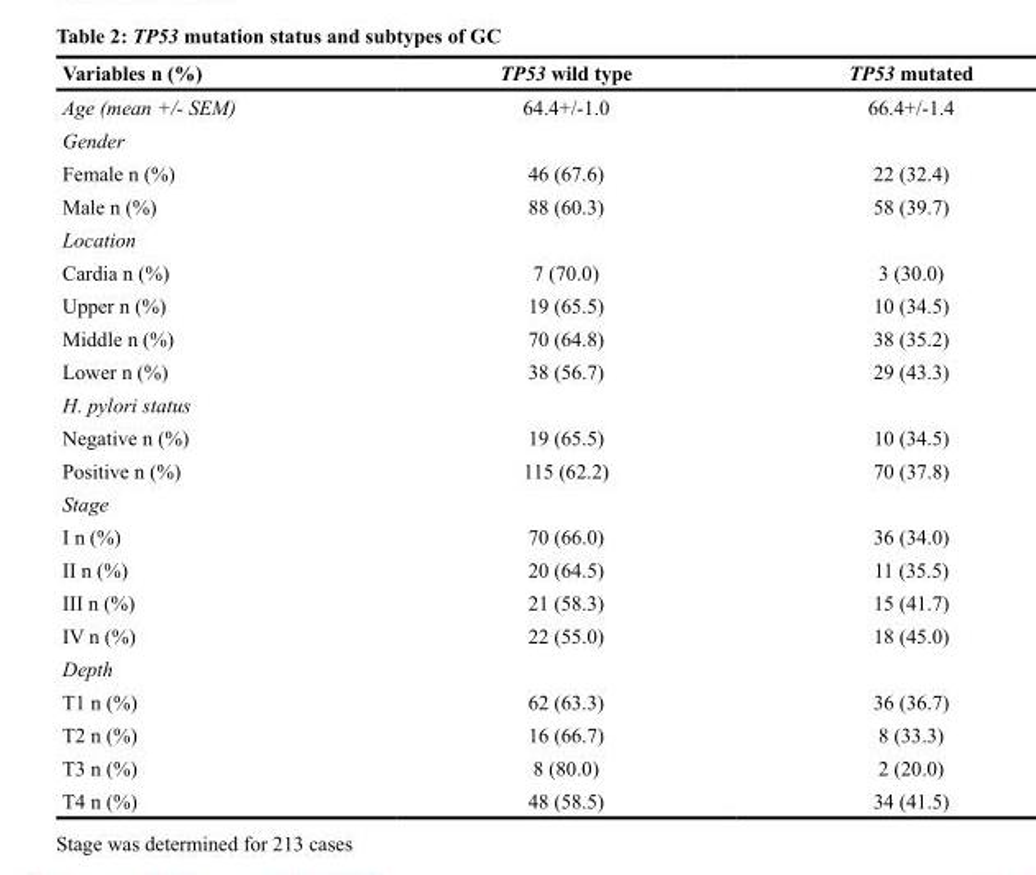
<table><thead><tr><td>Variables n (%)</td><td>TP53 wild type</td><td>TP53 mutated</td></tr></thead><tbody><tr><td>Age (mean +/- SEM)</td><td>64.4+/-1.0</td><td>66.4+/-1.4</td></tr><tr><td colspan="3">Gender</td></tr><tr><td>Female n (%)</td><td>46 (67.6)</td><td>22 (32.4)</td></tr><tr><td>Male n (%)</td><td>88 (60.3)</td><td>58 (39.7)</td></tr><tr><td colspan="3">Location</td></tr><tr><td>Cardia n (%)</td><td>7 (70.0)</td><td>3 (30.0)</td></tr><tr><td>Upper n (%)</td><td>19 (65.5)</td><td>10 (34.5)</td></tr><tr><td>Middle n (%)</td><td>70 (64.8)</td><td>38 (35.2)</td></tr><tr><td>Lower n (%)</td><td>38 (56.7)</td><td>29 (43.3)</td></tr><tr><td colspan="3">H. pylori status</td></tr><tr><td>Negative n (%)</td><td>19 (65.5)</td><td>10 (34.5)</td></tr><tr><td>Positive n (%)</td><td>115 (62.2)</td><td>70 (37.8)</td></tr><tr><td colspan="3">Stage</td></tr><tr><td>I n (%)</td><td>70 (66.0)</td><td>36 (34.0)</td></tr><tr><td>II n (%)</td><td>20 (64.5)</td><td>11 (35.5)</td></tr><tr><td>III n (%)</td><td>21 (58.3)</td><td>15 (41.7)</td></tr><tr><td>IV n (%)</td><td>22 (55.0)</td><td>18 (45.0)</td></tr><tr><td colspan="3">Depth</td></tr><tr><td>T1 n (%)</td><td>62 (63.3)</td><td>36 (36.7)</td></tr><tr><td>T2 n (%)</td><td>16 (66.7)</td><td>8 (33.3)</td></tr><tr><td>T3 n (%)</td><td>8 (80.0)</td><td>2 (20.0)</td></tr><tr><td>T4 n (%)</td><td>48 (58.5)</td><td>34 (41.5)</td></tr></tbody></table>